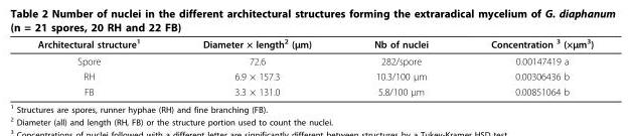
<table><thead><tr><td>Architectural structure<sup>1</sup></td><td>Diameter × length<sup>2</sup> (μm)</td><td>Nb of nuclei</td><td>Concentration <sup>3</sup> (×μm<sup>3</sup>)</td></tr></thead><tbody><tr><td>Spore</td><td>72.6</td><td>282/spore</td><td>0.00147419 a</td></tr><tr><td>RH</td><td>6.9 × 157.3</td><td>10.3/100 μm</td><td>0.00306436 b</td></tr><tr><td>FB</td><td>3.3 × 131.0</td><td>5.8/100 μm</td><td>0.00851064 b</td></tr></tbody></table>